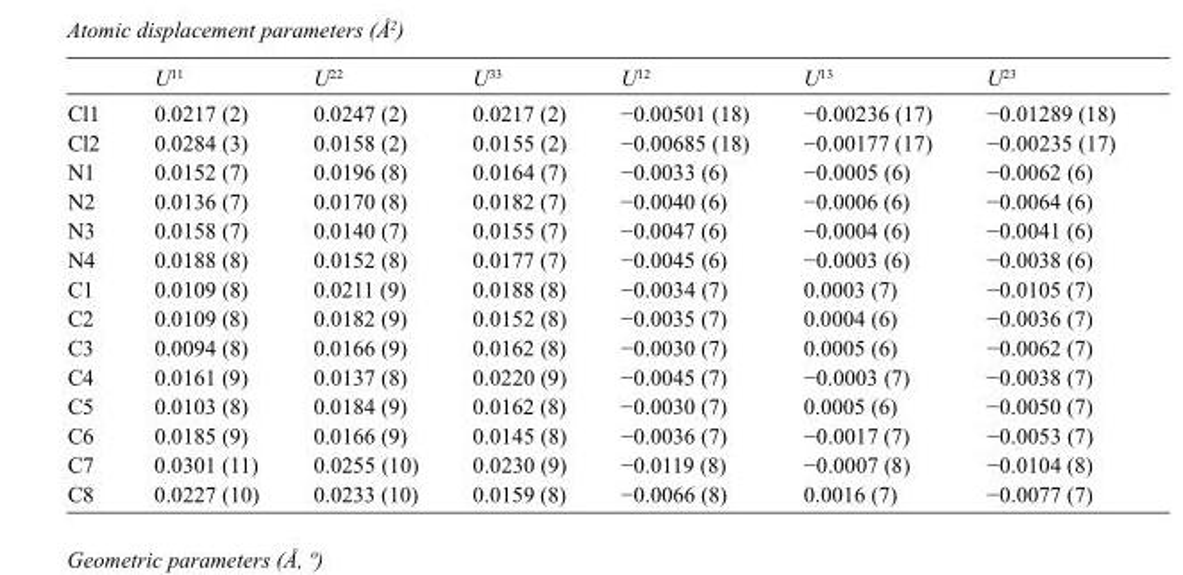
<table><thead><tr><td></td><td>U<sup>11</sup></td><td>U<sup>22</sup></td><td>U<sup>33</sup></td><td>U<sup>12</sup></td><td>U<sup>13</sup></td><td>U<sup>23</sup></td></tr></thead><tbody><tr><td>Cl1</td><td>0.0217 (2)</td><td>0.0247 (2)</td><td>0.0217 (2)</td><td>−0.00501 (18)</td><td>−0.00236 (17)</td><td>−0.01289 (18)</td></tr><tr><td>Cl2</td><td>0.0284 (3)</td><td>0.0158 (2)</td><td>0.0155 (2)</td><td>−0.00685 (18)</td><td>−0.00177 (17)</td><td>−0.00235 (17)</td></tr><tr><td>N1</td><td>0.0152 (7)</td><td>0.0196 (8)</td><td>0.0164 (7)</td><td>−0.0033 (6)</td><td>−0.0005 (6)</td><td>−0.0062 (6)</td></tr><tr><td>N2</td><td>0.0136 (7)</td><td>0.0170 (8)</td><td>0.0182 (7)</td><td>−0.0040 (6)</td><td>−0.0006 (6)</td><td>−0.0064 (6)</td></tr><tr><td>N3</td><td>0.0158 (7)</td><td>0.0140 (7)</td><td>0.0155 (7)</td><td>−0.0047 (6)</td><td>−0.0004 (6)</td><td>−0.0041 (6)</td></tr><tr><td>N4</td><td>0.0188 (8)</td><td>0.0152 (8)</td><td>0.0177 (7)</td><td>−0.0045 (6)</td><td>−0.0003 (6)</td><td>−0.0038 (6)</td></tr><tr><td>C1</td><td>0.0109 (8)</td><td>0.0211 (9)</td><td>0.0188 (8)</td><td>−0.0034 (7)</td><td>0.0003 (7)</td><td>−0.0105 (7)</td></tr><tr><td>C2</td><td>0.0109 (8)</td><td>0.0182 (9)</td><td>0.0152 (8)</td><td>−0.0035 (7)</td><td>0.0004 (6)</td><td>−0.0036 (7)</td></tr><tr><td>C3</td><td>0.0094 (8)</td><td>0.0166 (9)</td><td>0.0162 (8)</td><td>−0.0030 (7)</td><td>0.0005 (6)</td><td>−0.0062 (7)</td></tr><tr><td>C4</td><td>0.0161 (9)</td><td>0.0137 (8)</td><td>0.0220 (9)</td><td>−0.0045 (7)</td><td>−0.0003 (7)</td><td>−0.0038 (7)</td></tr><tr><td>C5</td><td>0.0103 (8)</td><td>0.0184 (9)</td><td>0.0162 (8)</td><td>−0.0030 (7)</td><td>0.0005 (6)</td><td>−0.0050 (7)</td></tr><tr><td>C6</td><td>0.0185 (9)</td><td>0.0166 (9)</td><td>0.0145 (8)</td><td>−0.0036 (7)</td><td>−0.0017 (7)</td><td>−0.0053 (7)</td></tr><tr><td>C7</td><td>0.0301 (11)</td><td>0.0255 (10)</td><td>0.0230 (9)</td><td>−0.0119 (8)</td><td>−0.0007 (8)</td><td>−0.0104 (8)</td></tr><tr><td>C8</td><td>0.0227 (10)</td><td>0.0233 (10)</td><td>0.0159 (8)</td><td>−0.0066 (8)</td><td>0.0016 (7)</td><td>−0.0077 (7)</td></tr></tbody></table>